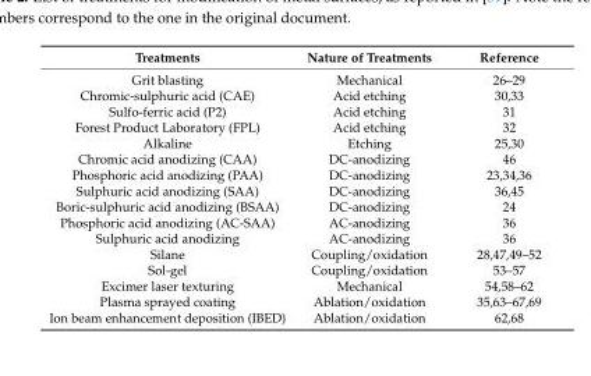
<table><thead><tr><td>Treatments</td><td>Nature of Treatments</td><td>Reference</td></tr></thead><tbody><tr><td>Grit blasting</td><td>Mechanical</td><td>26–29</td></tr><tr><td>Chromic-sulphuric acid (CAE)</td><td>Acid etching</td><td>30,33</td></tr><tr><td>Sulfo-ferric acid (P2)</td><td>Acid etching</td><td>31</td></tr><tr><td>Forest Product Laboratory (FPL)</td><td>Acid etching</td><td>32</td></tr><tr><td>Alkaline</td><td>Etching</td><td>25,30</td></tr><tr><td>Chromic acid anodizing (CAA)</td><td>DC-anodizing</td><td>46</td></tr><tr><td>Phosphoric acid anodizing (PAA)</td><td>DC-anodizing</td><td>23,34,36</td></tr><tr><td>Sulphuric acid anodizing (SAA)</td><td>DC-anodizing</td><td>36,45</td></tr><tr><td>Boric-sulphuric acid anodizing (BSAA)</td><td>DC-anodizing</td><td>24</td></tr><tr><td>Phosphoric acid anodizing (AC-SAA)</td><td>AC-anodizing</td><td>36</td></tr><tr><td>Sulphuric acid anodizing</td><td>AC-anodizing</td><td>36</td></tr><tr><td>Silane</td><td>Coupling/oxidation</td><td>28,47,49–52</td></tr><tr><td>Sol-gel</td><td>Coupling/oxidation</td><td>53–57</td></tr><tr><td>Excimer laser texturing</td><td>Mechanical</td><td>54,58–62</td></tr><tr><td>Plasma sprayed coating</td><td>Ablation/oxidation</td><td>35,63–67,69</td></tr><tr><td>Ion beam enhancement deposition (IBED)</td><td>Ablation/oxidation</td><td>62,68</td></tr></tbody></table>